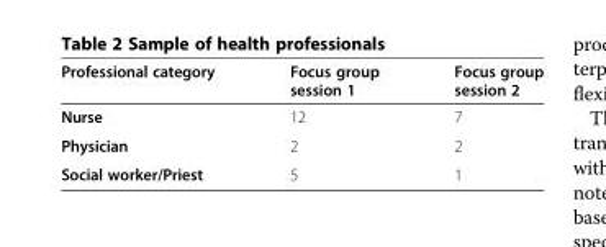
<table><thead><tr><td>Professional category</td><td>Focus group session 1</td><td>Focus group session 2</td></tr></thead><tbody><tr><td>Nurse</td><td>12</td><td>7</td></tr><tr><td>Physician</td><td>2</td><td>2</td></tr><tr><td>Social worker/Priest</td><td>5</td><td>1</td></tr></tbody></table>